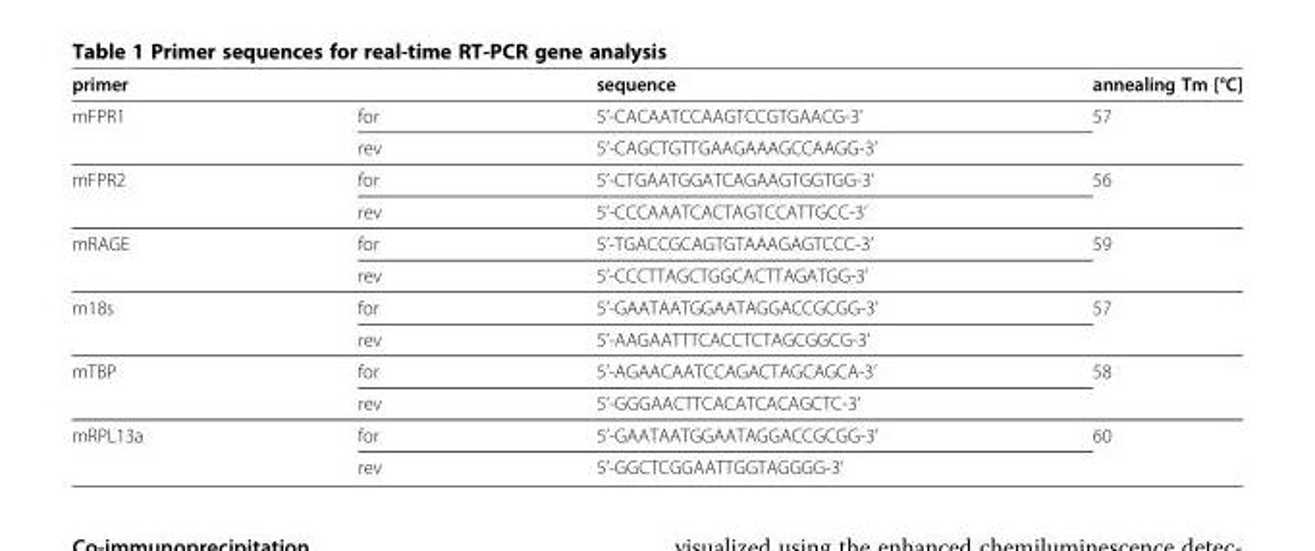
<table><thead><tr><td colspan="2">primer</td><td rowspan="2">sequence 5’-CACAATCCAAGTCCGTGAACG-3’</td><td rowspan="2">annealing Tm [°C] 57</td></tr><tr><td>mFPR1</td><td>for</td></tr></thead><tbody><tr><td></td><td>rev</td><td>5’-CAGCTGTTGAAGAAAGCCAAGG-3’</td><td></td></tr><tr><td rowspan="2">mFPR2</td><td>for</td><td>5’-CTGAATGGATCAGAAGTGGTGG-3’</td><td>56</td></tr><tr><td>rev</td><td>5’-CCCAAATCACTAGTCCATTGCC-3’</td><td></td></tr><tr><td rowspan="2">mRAGE</td><td>for</td><td>5’-TGACCGCAGTGTAAAGAGTCCC-3’</td><td>59</td></tr><tr><td>rev</td><td>5’-CCCTTAGCTGGCACTTAGATGG-3’</td><td></td></tr><tr><td rowspan="2">m18s</td><td>for</td><td>5’-GAATAATGGAATAGGACCGCGG-3’</td><td>57</td></tr><tr><td>rev</td><td>5’-AAGAATTTCACCTCTAGCGGCG-3’</td><td></td></tr><tr><td rowspan="2">mTBP</td><td>for</td><td>5’-AGAACAATCCAGACTAGCAGCA-3’</td><td>58</td></tr><tr><td>rev</td><td>5’-GGGAACTTCACATCACAGCTC-3’</td><td></td></tr><tr><td rowspan="2">mRPL13a</td><td>for</td><td>5’-GAATAATGGAATAGGACCGCGG-3’</td><td>60</td></tr><tr><td>rev</td><td>5’-GGCTCGGAATTGGTAGGGG-3’</td><td></td></tr></tbody></table>